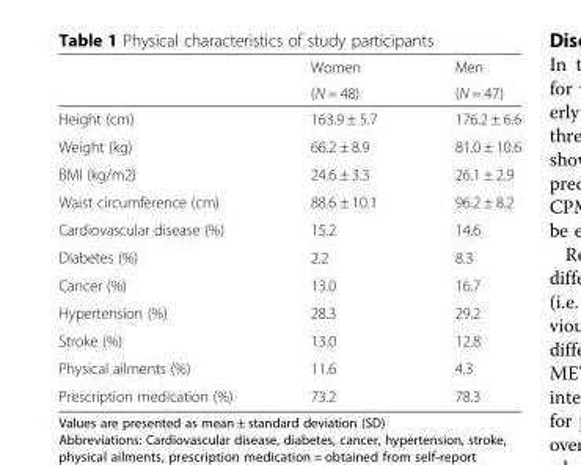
<table><thead><tr><td rowspan="2"></td><td rowspan="2">Women (N = 48)</td><td rowspan="2">Men (N = 47)</td></tr><tr></tr></thead><tbody><tr><td>Height (cm)</td><td>163.9 ± 5.7</td><td>176.2 ± 6.6</td></tr><tr><td>Weight (kg)</td><td>66.2 ± 8.9</td><td>81.0 ± 10.6</td></tr><tr><td>BMI (kg/m2)</td><td>24.6 ± 3.3</td><td>26.1 ± 2.9</td></tr><tr><td>Waist circumference (cm)</td><td>88.6 ± 10.1</td><td>96.2 ± 8.2</td></tr><tr><td>Cardiovascular disease (%)</td><td>15.2</td><td>14.6</td></tr><tr><td>Diabetes (%)</td><td>2.2</td><td>8.3</td></tr><tr><td>Cancer (%)</td><td>13.0</td><td>16.7</td></tr><tr><td>Hypertension (%)</td><td>28.3</td><td>29.2</td></tr><tr><td>Stroke (%)</td><td>13.0</td><td>12.8</td></tr><tr><td>Physical ailments (%)</td><td>11.6</td><td>4.3</td></tr><tr><td>Prescription medication (%)</td><td>73.2</td><td>78.3</td></tr></tbody></table>